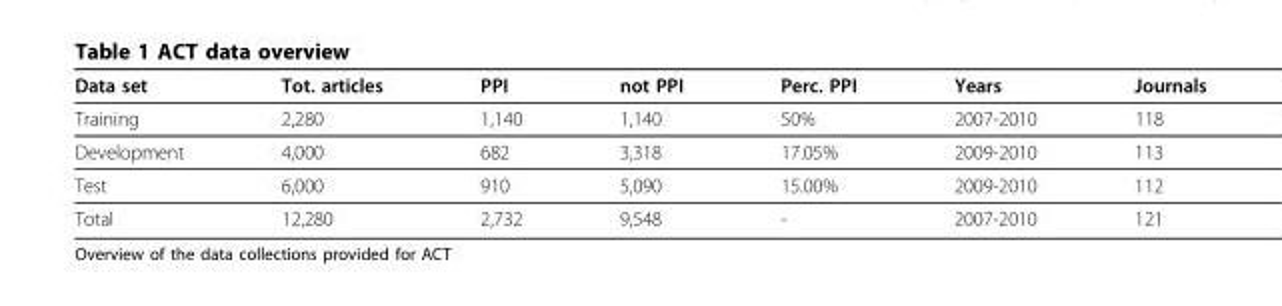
<table><thead><tr><td>Data set</td><td>Tot. articles</td><td>PPI</td><td>not PPI</td><td>Perc. PPI</td><td>Years</td><td>Journals</td></tr></thead><tbody><tr><td>Training</td><td>2,280</td><td>1,140</td><td>1,140</td><td>50%</td><td>2007-2010</td><td>118</td></tr><tr><td>Development</td><td>4,000</td><td>682</td><td>3,318</td><td>17.05%</td><td>2009-2010</td><td>113</td></tr><tr><td>Test</td><td>6,000</td><td>910</td><td>5,090</td><td>15.00%</td><td>2009-2010</td><td>112</td></tr><tr><td>Total</td><td>12,280</td><td>2,732</td><td>9,548</td><td>-</td><td>2007-2010</td><td>121</td></tr></tbody></table>